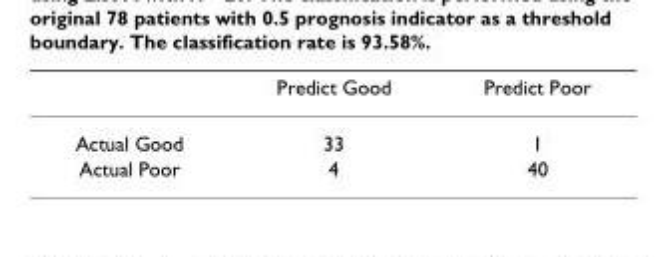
<table><thead><tr><td></td><td>Predict Good</td><td>Predict Poor</td></tr></thead><tbody><tr><td>Actual Good</td><td>33</td><td>1</td></tr><tr><td>Actual Poor</td><td>4</td><td>40</td></tr></tbody></table>